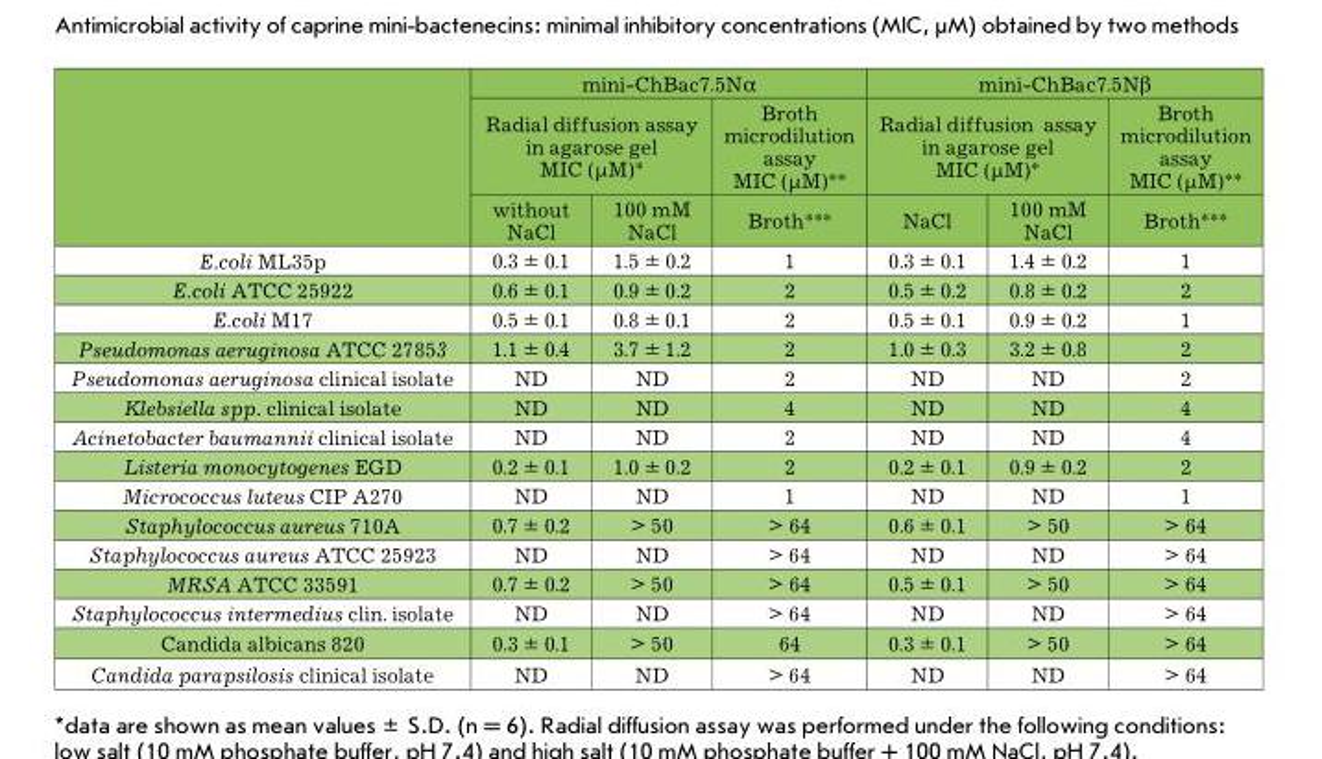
<table><thead><tr><td rowspan="3"></td><td colspan="3">mini-ChBac7.5Nα</td><td colspan="3">mini-ChBac7.5Nβ</td></tr><tr><td colspan="2">Radial diffusion assay in agarose gel MIC (µM)*</td><td rowspan="2">Broth microdilution assay MIC (µM)** Broth***</td><td colspan="2">Radial diffusion assay in agarose gel MIC (µM)*</td><td rowspan="2">Broth microdilution assay MIC (µM)** Broth***</td></tr><tr><td>without NaCl</td><td>100 mM NaCl</td><td>NaCl</td><td>100 mM NaCl</td></tr></thead><tbody><tr><td>E.coli ML35p</td><td>0.3 ± 0.1</td><td>1.5 ± 0.2</td><td>1</td><td>0.3 ± 0.1</td><td>1.4 ± 0.2</td><td>1</td></tr><tr><td>E.coli ATCC 25922</td><td>0.6 ± 0.1</td><td>0.9 ± 0.2</td><td>2</td><td>0.5 ± 0.2</td><td>0.8 ± 0.2</td><td>2</td></tr><tr><td>E.coli M17</td><td>0.5 ± 0.1</td><td>0.8 ± 0.1</td><td>2</td><td>0.5 ± 0.1</td><td>0.9 ± 0.2</td><td>1</td></tr><tr><td>Pseudomonas aeruginosa ATCC 27853</td><td>1.1 ± 0.4</td><td>3.7 ± 1.2</td><td>2</td><td>1.0 ± 0.3</td><td>3.2 ± 0.8</td><td>2</td></tr><tr><td>Pseudomonas aeruginosa clinical isolate</td><td>ND</td><td>ND</td><td>2</td><td>ND</td><td>ND</td><td>2</td></tr><tr><td>Klebsiella spp. clinical isolate</td><td>ND</td><td>ND</td><td>4</td><td>ND</td><td>ND</td><td>4</td></tr><tr><td>Acinetobacter baumannii clinical isolate</td><td>ND</td><td>ND</td><td>2</td><td>ND</td><td>ND</td><td>4</td></tr><tr><td>Listeria monocytogenes EGD</td><td>0.2 ± 0.1</td><td>1.0 ± 0.2</td><td>2</td><td>0.2 ± 0.1</td><td>0.9 ± 0.2</td><td>2</td></tr><tr><td>Micrococcus luteus CIP A270</td><td>ND</td><td>ND</td><td>1</td><td>ND</td><td>ND</td><td>1</td></tr><tr><td>Staphylococcus aureus 710A</td><td>0.7 ± 0.2</td><td>&gt; 50</td><td>&gt; 64</td><td>0.6 ± 0.1</td><td>&gt; 50</td><td>&gt; 64</td></tr><tr><td>Staphylococcus aureus АТСС 25923</td><td>ND</td><td>ND</td><td>&gt; 64</td><td>ND</td><td>ND</td><td>&gt; 64</td></tr><tr><td>MRSA ATCC 33591</td><td>0.7 ± 0.2</td><td>&gt; 50</td><td>&gt; 64</td><td>0.5 ± 0.1</td><td>&gt; 50</td><td>&gt; 64</td></tr><tr><td>Staphylococcus intermedius clin. isolate</td><td>ND</td><td>ND</td><td>&gt; 64</td><td>ND</td><td>ND</td><td>&gt; 64</td></tr><tr><td>Candida albicans 820</td><td>0.3 ± 0.1</td><td>&gt; 50</td><td>64</td><td>0.3 ± 0.1</td><td>&gt; 50</td><td>&gt; 64</td></tr><tr><td>Candida parapsilоsis clinical isolate</td><td>ND</td><td>ND</td><td>&gt; 64</td><td>ND</td><td>ND</td><td>&gt; 64</td></tr></tbody></table>